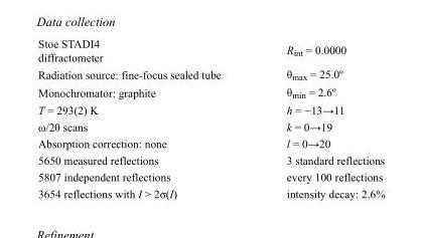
<table><tbody><tr><td>Stoe STADI4 diffractometer</td><td>R<sub>int</sub> = 0.0000</td></tr><tr><td>Radiation source: fine-focus sealed tube</td><td>θ<sub>max</sub> = 25.0º</td></tr><tr><td>Monochromator: graphite</td><td>θ<sub>min</sub> = 2.6º</td></tr><tr><td>T = 293(2) K</td><td>h = −13→11</td></tr><tr><td>ω/2θ scans</td><td>k = 0→19</td></tr><tr><td>Absorption correction: none</td><td>l = 0→20</td></tr><tr><td>5650 measured reflections</td><td>3 standard reflections</td></tr><tr><td>5807 independent reflections</td><td>every 100 reflections</td></tr><tr><td>3654 reflections with I &gt; 2σ(I)</td><td>intensity decay: 2.6%</td></tr></tbody></table>